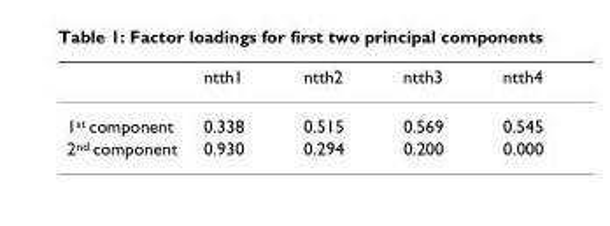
<table><thead><tr><td></td><td>ntth1</td><td>ntth2</td><td>ntth3</td><td>ntth4</td></tr></thead><tbody><tr><td>1st component</td><td>0.338</td><td>0.515</td><td>0.569</td><td>0.545</td></tr><tr><td>2nd component</td><td>0.930</td><td>0.294</td><td>0.200</td><td>0.000</td></tr></tbody></table>